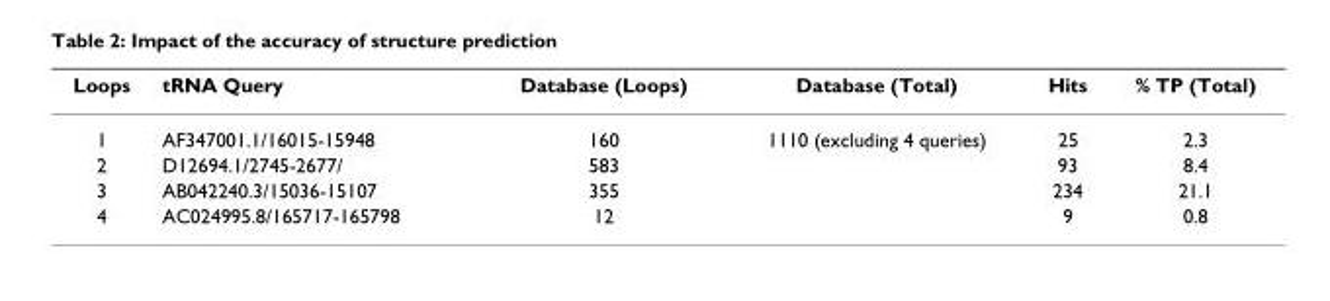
<table><thead><tr><td>Loops</td><td>tRNA Query</td><td>Database (Loops)</td><td>Database (Total)</td><td>Hits</td><td>% TP (Total)</td></tr></thead><tbody><tr><td>1</td><td>AF347001.1/16015-15948</td><td>160</td><td>1110 (excluding 4 queries)</td><td>25</td><td>2.3</td></tr><tr><td>2</td><td>D12694.1/2745-2677/</td><td>583</td><td></td><td>93</td><td>8.4</td></tr><tr><td>3</td><td>AB042240.3/15036-15107</td><td>355</td><td></td><td>234</td><td>21.1</td></tr><tr><td>4</td><td>AC024995.8/165717-165798</td><td>12</td><td></td><td>9</td><td>0.8</td></tr></tbody></table>